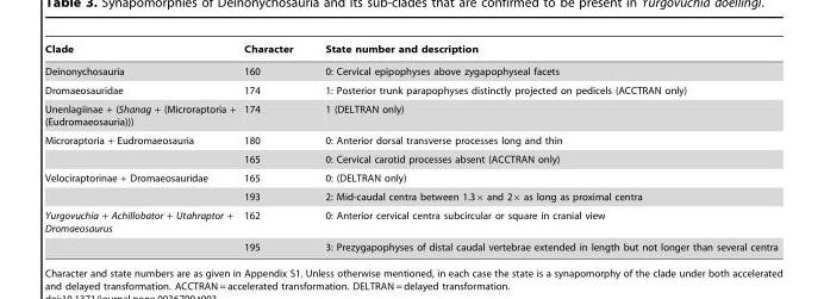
<table><thead><tr><td>Clade</td><td>Character</td><td>State number and description</td></tr></thead><tbody><tr><td>Deinonychosauria</td><td>160</td><td>0: Cervical epipophyses above zygapophyseal facets</td></tr><tr><td>Dromaeosauridae</td><td>174</td><td>1: Posterior trunk parapophyses distinctly projected on pedicels (ACCTRAN only)</td></tr><tr><td>Unenlagiinae + (Shanag + (Microraptoria + (Eudromaeosauria)))</td><td>174</td><td>1 (DELTRAN only)</td></tr><tr><td rowspan="2">Microraptoria + Eudromaeosauria</td><td>180</td><td>0: Anterior dorsal transverse processes long and thin</td></tr><tr><td>165</td><td>0: Cervical carotid processes absent (ACCTRAN only)</td></tr><tr><td rowspan="2">Velociraptorinae + Dromaeosauridae</td><td>165</td><td>0: (DELTRAN only)</td></tr><tr><td>193</td><td>2: Mid-caudal centra between 1.3× and 2× as long as proximal centra</td></tr><tr><td rowspan="2">Yurgovuchia + Achillobator + Utahraptor + Dromaeosaurus</td><td>162</td><td>0: Anterior cervical centra subcircular or square in cranial view</td></tr><tr><td>195</td><td>3: Prezygapophyses of distal caudal vertebrae extended in length but not longer than several centra</td></tr></tbody></table>